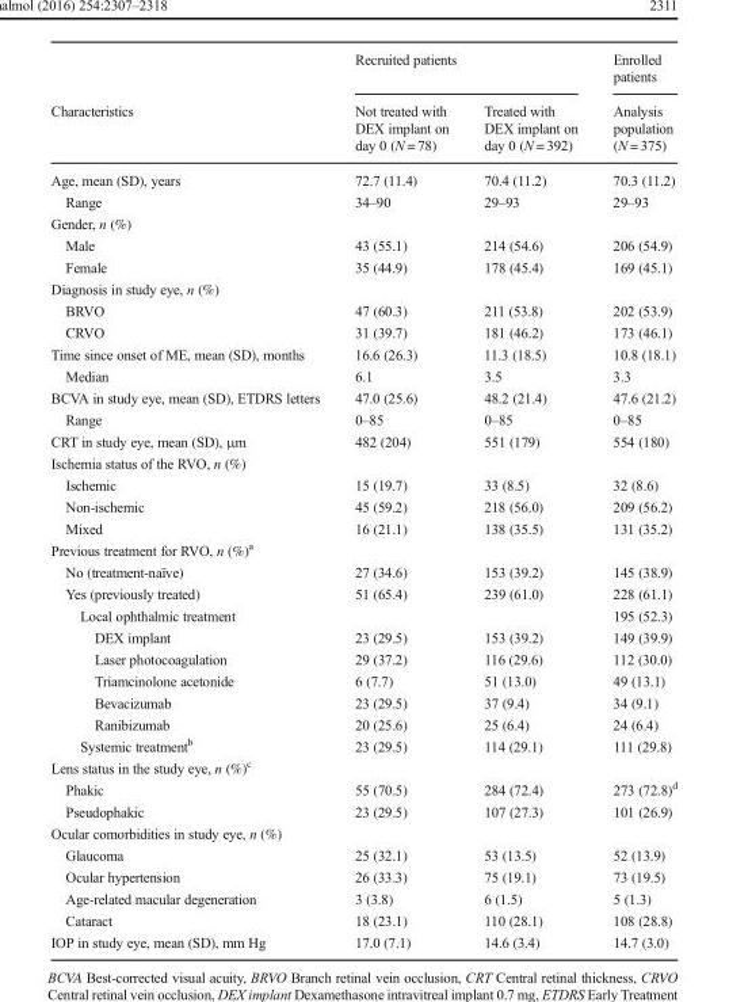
<table><thead><tr><td rowspan="2">Characteristics</td><td colspan="2">Recruited patients</td><td rowspan="2">Enrolled patients Analysis population (N = 375)</td></tr><tr><td>Not treated with DEX implant on day 0 (N = 78)</td><td>Treated with DEX implant on day 0 (N = 392)</td></tr></thead><tbody><tr><td>Age, mean (SD), years</td><td>72.7 (11.4)</td><td>70.4 (11.2)</td><td>70.3 (11.2)</td></tr><tr><td>Range</td><td>34–90</td><td>29–93</td><td>29–93</td></tr><tr><td colspan="4">Gender, n (%)</td></tr><tr><td>Male</td><td>43 (55.1)</td><td>214 (54.6)</td><td>206 (54.9)</td></tr><tr><td>Female</td><td>35 (44.9)</td><td>178 (45.4)</td><td>169 (45.1)</td></tr><tr><td colspan="4">Diagnosis in study eye, n (%)</td></tr><tr><td>BRVO</td><td>47 (60.3)</td><td>211 (53.8)</td><td>202 (53.9)</td></tr><tr><td>CRVO</td><td>31 (39.7)</td><td>181 (46.2)</td><td>173 (46.1)</td></tr><tr><td>Time since onset of ME, mean (SD), months</td><td>16.6 (26.3)</td><td>11.3 (18.5)</td><td>10.8 (18.1)</td></tr><tr><td>Median</td><td>6.1</td><td>3.5</td><td>3.3</td></tr><tr><td>BCVA in study eye, mean (SD), ETDRS letters</td><td>47.0 (25.6)</td><td>48.2 (21.4)</td><td>47.6 (21.2)</td></tr><tr><td>Range</td><td>0–85</td><td>0–85</td><td>0–85</td></tr><tr><td>CRT in study eye, mean (SD), μm</td><td>482 (204)</td><td>551 (179)</td><td>554 (180)</td></tr><tr><td colspan="4">Ischemia status of the RVO, n (%)</td></tr><tr><td>Ischemic</td><td>15 (19.7)</td><td>33 (8.5)</td><td>32 (8.6)</td></tr><tr><td>Non-ischemic</td><td>45 (59.2)</td><td>218 (56.0)</td><td>209 (56.2)</td></tr><tr><td>Mixed</td><td>16 (21.1)</td><td>138 (35.5)</td><td>131 (35.2)</td></tr><tr><td colspan="4">Previous treatment for RVO, n (%)<sup>a</sup></td></tr><tr><td>No (treatment-naïve)</td><td>27 (34.6)</td><td>153 (39.2)</td><td>145 (38.9)</td></tr><tr><td>Yes (previously treated)</td><td>51 (65.4)</td><td>239 (61.0)</td><td>228 (61.1)</td></tr><tr><td>Local ophthalmic treatment</td><td></td><td></td><td>195 (52.3)</td></tr><tr><td>DEX implant</td><td>23 (29.5)</td><td>153 (39.2)</td><td>149 (39.9)</td></tr><tr><td>Laser photocoagulation</td><td>29 (37.2)</td><td>116 (29.6)</td><td>112 (30.0)</td></tr><tr><td>Triamcinolone acetonide</td><td>6 (7.7)</td><td>51 (13.0)</td><td>49 (13.1)</td></tr><tr><td>Bevacizumab</td><td>23 (29.5)</td><td>37 (9.4)</td><td>34 (9.1)</td></tr><tr><td>Ranibizumab</td><td>20 (25.6)</td><td>25 (6.4)</td><td>24 (6.4)</td></tr><tr><td>Systemic treatment<sup>b</sup></td><td>23 (29.5)</td><td>114 (29.1)</td><td>111 (29.8)</td></tr><tr><td colspan="4">Lens status in the study eye, n (%)<sup>c</sup></td></tr><tr><td>Phakic</td><td>55 (70.5)</td><td>284 (72.4)</td><td>273 (72.8)<sup>d</sup></td></tr><tr><td>Pseudophakic</td><td>23 (29.5)</td><td>107 (27.3)</td><td>101 (26.9)</td></tr><tr><td colspan="4">Ocular comorbidities in study eye, n (%)</td></tr><tr><td>Glaucoma</td><td>25 (32.1)</td><td>53 (13.5)</td><td>52 (13.9)</td></tr><tr><td>Ocular hypertension</td><td>26 (33.3)</td><td>75 (19.1)</td><td>73 (19.5)</td></tr><tr><td>Age-related macular degeneration</td><td>3 (3.8)</td><td>6 (1.5)</td><td>5 (1.3)</td></tr><tr><td>Cataract</td><td>18 (23.1)</td><td>110 (28.1)</td><td>108 (28.8)</td></tr><tr><td>IOP in study eye, mean (SD), mm Hg</td><td>17.0 (7.1)</td><td>14.6 (3.4)</td><td>14.7 (3.0)</td></tr></tbody></table>